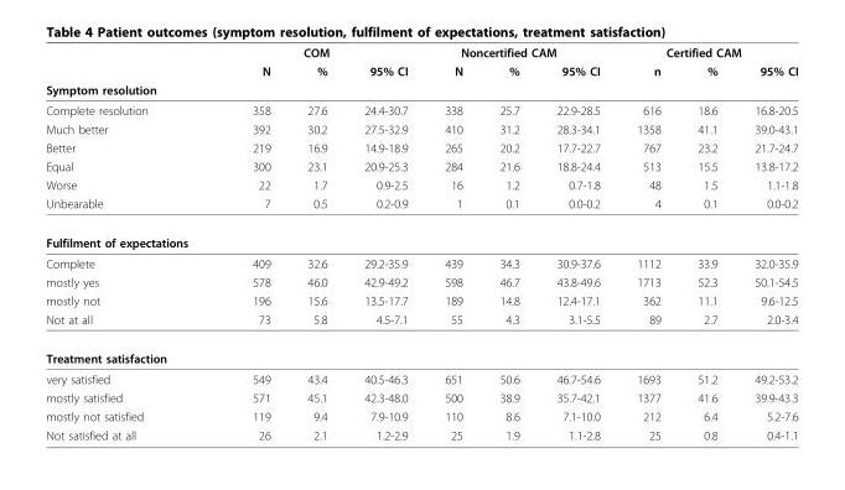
<table><thead><tr><td rowspan="3">Symptom resolution</td><td colspan="3">COM</td><td colspan="3">Noncertified CAM</td><td colspan="3">Certified CAM</td></tr><tr><td rowspan="2">N</td><td rowspan="2">%</td><td rowspan="2">95% CI</td><td rowspan="2">N</td><td rowspan="2">%</td><td rowspan="2">95% CI</td><td rowspan="2">n</td><td rowspan="2">%</td><td rowspan="2">95% CI</td></tr><tr></tr></thead><tbody><tr><td>Complete resolution</td><td>358</td><td>27.6</td><td>24.4-30.7</td><td>338</td><td>25.7</td><td>22.9-28.5</td><td>616</td><td>18.6</td><td>16.8-20.5</td></tr><tr><td>Much better</td><td>392</td><td>30.2</td><td>27.5-32.9</td><td>410</td><td>31.2</td><td>28.3-34.1</td><td>1358</td><td>41.1</td><td>39.0-43.1</td></tr><tr><td>Better</td><td>219</td><td>16.9</td><td>14.9-18.9</td><td>265</td><td>20.2</td><td>17.7-22.7</td><td>767</td><td>23.2</td><td>21.7-24.7</td></tr><tr><td>Equal</td><td>300</td><td>23.1</td><td>20.9-25.3</td><td>284</td><td>21.6</td><td>18.8-24.4</td><td>513</td><td>15.5</td><td>13.8-17.2</td></tr><tr><td>Worse</td><td>22</td><td>1.7</td><td>0.9-2.5</td><td>16</td><td>1.2</td><td>0.7-1.8</td><td>48</td><td>1.5</td><td>1.1-1.8</td></tr><tr><td>Unbearable</td><td>7</td><td>0.5</td><td>0.2-0.9</td><td>1</td><td>0.1</td><td>0.0-0.2</td><td>4</td><td>0.1</td><td>0.0-0.2</td></tr><tr><td colspan="10">Fulfilment of expectations</td></tr><tr><td>Complete</td><td>409</td><td>32.6</td><td>29.2-35.9</td><td>439</td><td>34.3</td><td>30.9-37.6</td><td>1112</td><td>33.9</td><td>32.0-35.9</td></tr><tr><td>mostly yes</td><td>578</td><td>46.0</td><td>42.9-49.2</td><td>598</td><td>46.7</td><td>43.8-49.6</td><td>1713</td><td>52.3</td><td>50.1-54.5</td></tr><tr><td>mostly not</td><td>196</td><td>15.6</td><td>13.5-17.7</td><td>189</td><td>14.8</td><td>12.4-17.1</td><td>362</td><td>11.1</td><td>9.6-12.5</td></tr><tr><td>Not at all</td><td>73</td><td>5.8</td><td>4.5-7.1</td><td>55</td><td>4.3</td><td>3.1-5.5</td><td>89</td><td>2.7</td><td>2.0-3.4</td></tr><tr><td colspan="10">Treatment satisfaction</td></tr><tr><td>very satisfied</td><td>549</td><td>43.4</td><td>40.5-46.3</td><td>651</td><td>50.6</td><td>46.7-54.6</td><td>1693</td><td>51.2</td><td>49.2-53.2</td></tr><tr><td>mostly satisfied</td><td>571</td><td>45.1</td><td>42.3-48.0</td><td>500</td><td>38.9</td><td>35.7-42.1</td><td>1377</td><td>41.6</td><td>39.9-43.3</td></tr><tr><td>mostly not satisfied</td><td>119</td><td>9.4</td><td>7.9-10.9</td><td>110</td><td>8.6</td><td>7.1-10.0</td><td>212</td><td>6.4</td><td>5.2-7.6</td></tr><tr><td>Not satisfied at all</td><td>26</td><td>2.1</td><td>1.2-2.9</td><td>25</td><td>1.9</td><td>1.1-2.8</td><td>25</td><td>0.8</td><td>0.4-1.1</td></tr></tbody></table>